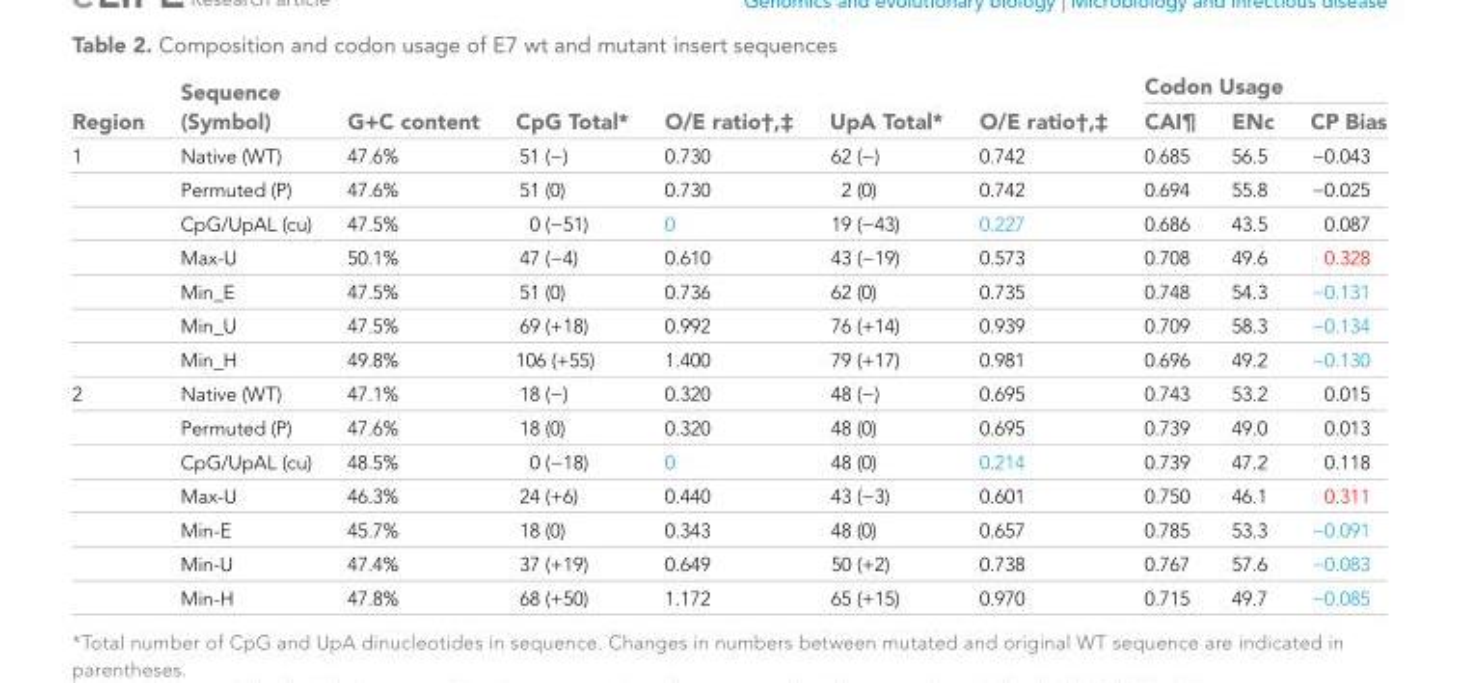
<table><thead><tr><td rowspan="2">Region</td><td rowspan="2">Sequence (Symbol)</td><td rowspan="2">G+C content</td><td rowspan="2">CpG Total*</td><td rowspan="2">O/E ratio†,‡</td><td rowspan="2">UpA Total*</td><td rowspan="2">O/E ratio†,‡</td><td colspan="3">Codon Usage</td></tr><tr><td>CAI¶</td><td>ENc</td><td>CP Bias</td></tr></thead><tbody><tr><td rowspan="7">1</td><td>Native (WT)</td><td>47.6%</td><td>51 (−)</td><td>0.730</td><td>62 (−)</td><td>0.742</td><td>0.685</td><td>56.5</td><td>−0.043</td></tr><tr><td>Permuted (P)</td><td>47.6%</td><td>51 (0)</td><td>0.730</td><td>2 (0)</td><td>0.742</td><td>0.694</td><td>55.8</td><td>−0.025</td></tr><tr><td>CpG/UpAL (cu)</td><td>47.5%</td><td>0 (−51)</td><td>0</td><td>19 (−43)</td><td>0.227</td><td>0.686</td><td>43.5</td><td>0.087</td></tr><tr><td>Max-U</td><td>50.1%</td><td>47 (−4)</td><td>0.610</td><td>43 (−19)</td><td>0.573</td><td>0.708</td><td>49.6</td><td>0.328</td></tr><tr><td>Min_E</td><td>47.5%</td><td>51 (0)</td><td>0.736</td><td>62 (0)</td><td>0.735</td><td>0.748</td><td>54.3</td><td>−0.131</td></tr><tr><td>Min_U</td><td>47.5%</td><td>69 (+18)</td><td>0.992</td><td>76 (+14)</td><td>0.939</td><td>0.709</td><td>58.3</td><td>−0.134</td></tr><tr><td>Min_H</td><td>49.8%</td><td>106 (+55)</td><td>1.400</td><td>79 (+17)</td><td>0.981</td><td>0.696</td><td>49.2</td><td>−0.130</td></tr><tr><td rowspan="7">2</td><td>Native (WT)</td><td>47.1%</td><td>18 (−)</td><td>0.320</td><td>48 (−)</td><td>0.695</td><td>0.743</td><td>53.2</td><td>0.015</td></tr><tr><td>Permuted (P)</td><td>47.6%</td><td>18 (0)</td><td>0.320</td><td>48 (0)</td><td>0.695</td><td>0.739</td><td>49.0</td><td>0.013</td></tr><tr><td>CpG/UpAL (cu)</td><td>48.5%</td><td>0 (−18)</td><td>0</td><td>48 (0)</td><td>0.214</td><td>0.739</td><td>47.2</td><td>0.118</td></tr><tr><td>Max-U</td><td>46.3%</td><td>24 (+6)</td><td>0.440</td><td>43 (−3)</td><td>0.601</td><td>0.750</td><td>46.1</td><td>0.311</td></tr><tr><td>Min-E</td><td>45.7%</td><td>18 (0)</td><td>0.343</td><td>48 (0)</td><td>0.657</td><td>0.785</td><td>53.3</td><td>−0.091</td></tr><tr><td>Min-U</td><td>47.4%</td><td>37 (+19)</td><td>0.649</td><td>50 (+2)</td><td>0.738</td><td>0.767</td><td>57.6</td><td>−0.083</td></tr><tr><td>Min-H</td><td>47.8%</td><td>68 (+50)</td><td>1.172</td><td>65 (+15)</td><td>0.970</td><td>0.715</td><td>49.7</td><td>−0.085</td></tr></tbody></table>